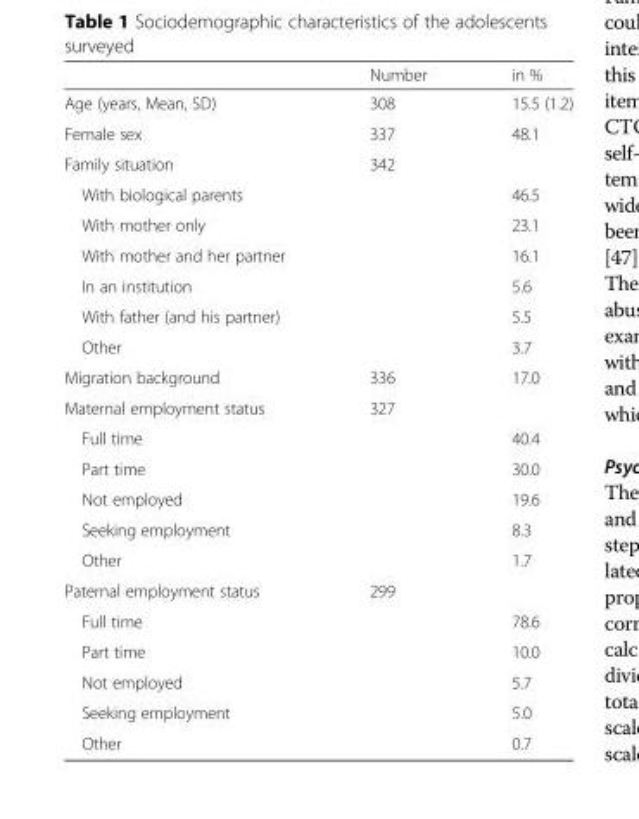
<table><thead><tr><td></td><td>Number</td><td>in %</td></tr></thead><tbody><tr><td>Age (years, Mean, SD)</td><td>308</td><td>15.5 (1.2)</td></tr><tr><td>Female sex</td><td>337</td><td>48.1</td></tr><tr><td>Family situation</td><td>342</td><td></td></tr><tr><td>With biological parents</td><td></td><td>46.5</td></tr><tr><td>With mother only</td><td></td><td>23.1</td></tr><tr><td>With mother and her partner</td><td></td><td>16.1</td></tr><tr><td>In an institution</td><td></td><td>5.6</td></tr><tr><td>With father (and his partner)</td><td></td><td>5.5</td></tr><tr><td>Other</td><td></td><td>3.7</td></tr><tr><td>Migration background</td><td>336</td><td>17.0</td></tr><tr><td>Maternal employment status</td><td>327</td><td></td></tr><tr><td>Full time</td><td></td><td>40.4</td></tr><tr><td>Part time</td><td></td><td>30.0</td></tr><tr><td>Not employed</td><td></td><td>19.6</td></tr><tr><td>Seeking employment</td><td></td><td>8.3</td></tr><tr><td>Other</td><td></td><td>1.7</td></tr><tr><td>Paternal employment status</td><td>299</td><td></td></tr><tr><td>Full time</td><td></td><td>78.6</td></tr><tr><td>Part time</td><td></td><td>10.0</td></tr><tr><td>Not employed</td><td></td><td>5.7</td></tr><tr><td>Seeking employment</td><td></td><td>5.0</td></tr><tr><td>Other</td><td></td><td>0.7</td></tr></tbody></table>